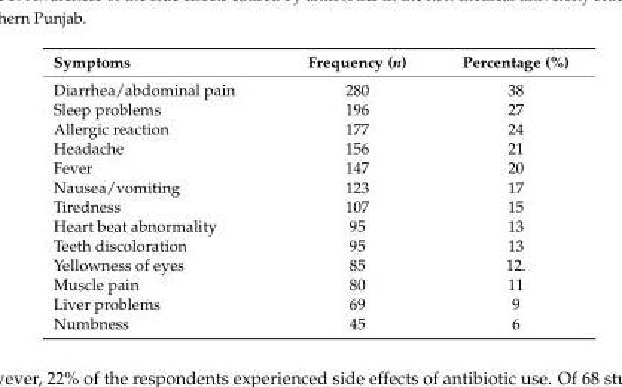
<table><thead><tr><td>Symptoms</td><td>Frequency (n)</td><td>Percentage (%)</td></tr></thead><tbody><tr><td>Diarrhea/abdominal pain</td><td>280</td><td>38</td></tr><tr><td>Sleep problems</td><td>196</td><td>27</td></tr><tr><td>Allergic reaction</td><td>177</td><td>24</td></tr><tr><td>Headache</td><td>156</td><td>21</td></tr><tr><td>Fever</td><td>147</td><td>20</td></tr><tr><td>Nausea/vomiting</td><td>123</td><td>17</td></tr><tr><td>Tiredness</td><td>107</td><td>15</td></tr><tr><td>Heart beat abnormality</td><td>95</td><td>13</td></tr><tr><td>Teeth discoloration</td><td>95</td><td>13</td></tr><tr><td>Yellowness of eyes</td><td>85</td><td>12.</td></tr><tr><td>Muscle pain</td><td>80</td><td>11</td></tr><tr><td>Liver problems</td><td>69</td><td>9</td></tr><tr><td>Numbness</td><td>45</td><td>6</td></tr></tbody></table>